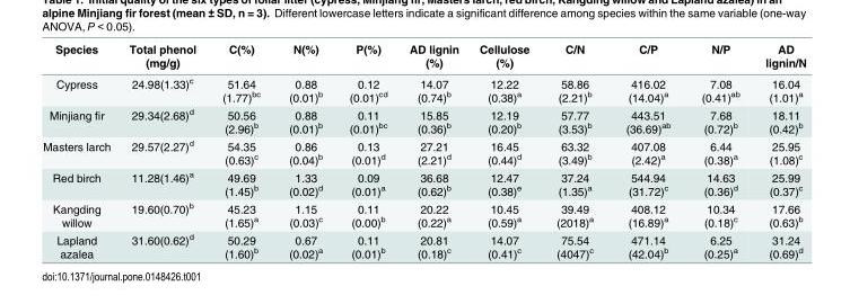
<table><thead><tr><td>Species</td><td>Total phenol (mg/g)</td><td>C(%)</td><td>N(%)</td><td>P(%)</td><td>AD lignin (%)</td><td>Cellulose (%)</td><td>C/N</td><td>C/P</td><td>N/P</td><td>AD lignin/N</td></tr></thead><tbody><tr><td>Cypress</td><td>24.98(1.33)<sup>c</sup></td><td>51.64 (1.77)<sup>bc</sup></td><td>0.88 (0.01)<sup>b</sup></td><td>0.12 (0.01)<sup>cd</sup></td><td>14.07 (0.74)<sup>b</sup></td><td>12.22 (0.38)<sup>a</sup></td><td>58.86 (2.21)<sup>b</sup></td><td>416.02 (14.04)<sup>a</sup></td><td>7.08 (0.41)<sup>ab</sup></td><td>16.04 (1.01)<sup>a</sup></td></tr><tr><td>Minjiang fir</td><td>29.34(2.68)<sup>d</sup></td><td>50.56 (2.96)<sup>b</sup></td><td>0.88 (0.01)<sup>b</sup></td><td>0.11 (0.01)<sup>bc</sup></td><td>15.85 (0.36)<sup>b</sup></td><td>12.19 (0.20)<sup>b</sup></td><td>57.77 (3.53)<sup>b</sup></td><td>443.51 (36.69)<sup>ab</sup></td><td>7.68 (0.72)<sup>b</sup></td><td>18.11 (0.42)<sup>b</sup></td></tr><tr><td>Masters larch</td><td>29.57(2.27)<sup>d</sup></td><td>54.35 (0.63)<sup>c</sup></td><td>0.86 (0.04)<sup>b</sup></td><td>0.13 (0.01)<sup>d</sup></td><td>27.21 (2.21)<sup>d</sup></td><td>16.45 (0.44)<sup>d</sup></td><td>63.32 (3.49)<sup>b</sup></td><td>407.08 (2.42)<sup>a</sup></td><td>6.44 (0.38)<sup>a</sup></td><td>25.95 (1.08)<sup>c</sup></td></tr><tr><td>Red birch</td><td>11.28(1.46)<sup>a</sup></td><td>49.69 (1.45)<sup>b</sup></td><td>1.33 (0.02)<sup>d</sup></td><td>0.09 (0.01)<sup>a</sup></td><td>36.68 (0.62)<sup>b</sup></td><td>12.47 (0.38)<sup>e</sup></td><td>37.24 (1.35)<sup>a</sup></td><td>544.94 (31.72)<sup>c</sup></td><td>14.63 (0.36)<sup>d</sup></td><td>25.99 (0.37)<sup>c</sup></td></tr><tr><td>Kangding willow</td><td>19.60(0.70)<sup>b</sup></td><td>45.23 (1.65)<sup>a</sup></td><td>1.15 (0.03)<sup>c</sup></td><td>0.11 (0.00)<sup>b</sup></td><td>20.22 (0.22)<sup>a</sup></td><td>10.45 (0.59)<sup>a</sup></td><td>39.49 (2018)<sup>a</sup></td><td>408.12 (16.89)<sup>a</sup></td><td>10.34 (0.18)<sup>c</sup></td><td>17.66 (0.63)<sup>b</sup></td></tr><tr><td>Lapland azalea</td><td>31.60(0.62)<sup>d</sup></td><td>50.29 (1.60)<sup>b</sup></td><td>0.67 (0.02)<sup>a</sup></td><td>0.11 (0.01)<sup>b</sup></td><td>20.81 (0.18)<sup>c</sup></td><td>14.07 (0.41)<sup>c</sup></td><td>75.54 (4047)<sup>c</sup></td><td>471.14 (42.04)<sup>b</sup></td><td>6.25 (0.25)<sup>a</sup></td><td>31.24 (0.69)<sup>d</sup></td></tr></tbody></table>